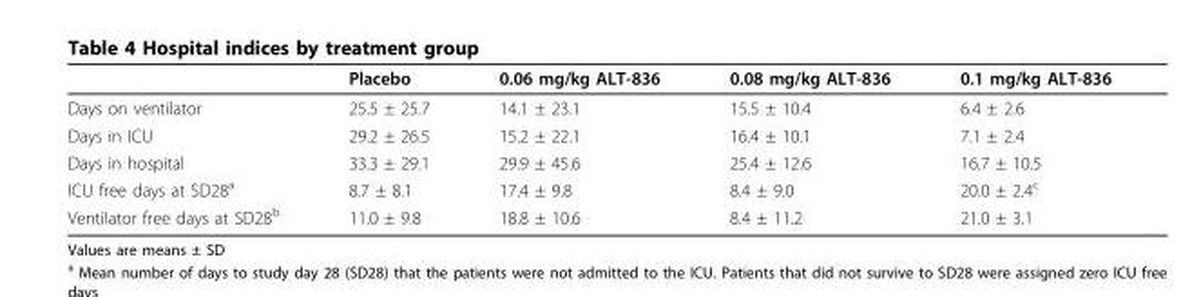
<table><thead><tr><td></td><td>Placebo</td><td>0.06 mg/kg ALT-836</td><td>0.08 mg/kg ALT-836</td><td>0.1 mg/kg ALT-836</td></tr></thead><tbody><tr><td>Days on ventilator</td><td>25.5 ± 25.7</td><td>14.1 ± 23.1</td><td>15.5 ± 10.4</td><td>6.4 ± 2.6</td></tr><tr><td>Days in ICU</td><td>29.2 ± 26.5</td><td>15.2 ± 22.1</td><td>16.4 ± 10.1</td><td>7.1 ± 2.4</td></tr><tr><td>Days in hospital</td><td>33.3 ± 29.1</td><td>29.9 ± 45.6</td><td>25.4 ± 12.6</td><td>16.7 ± 10.5</td></tr><tr><td>ICU free days at SD28<sup>a</sup></td><td>8.7 ± 8.1</td><td>17.4 ± 9.8</td><td>8.4 ± 9.0</td><td>20.0 ± 2.4<sup>c</sup></td></tr><tr><td>Ventilator free days at SD28<sup>b</sup></td><td>11.0 ± 9.8</td><td>18.8 ± 10.6</td><td>8.4 ± 11.2</td><td>21.0 ± 3.1</td></tr></tbody></table>